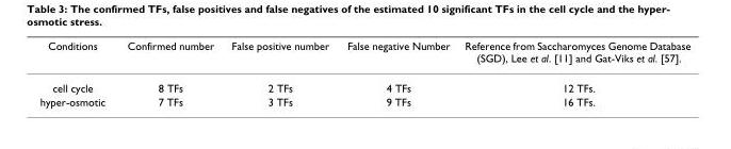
<table><thead><tr><td>Conditions</td><td>Confirmed number</td><td>False positive number</td><td>False negative Number</td><td>Reference from Saccharomyces Genome Database (SGD), Lee et al. [11] and Gat-Viks et al. [57].</td></tr></thead><tbody><tr><td>cell cycle</td><td>8 TFs</td><td>2 TFs</td><td>4 TFs</td><td>12 TFs.</td></tr><tr><td>hyper-osmotic</td><td>7 TFs</td><td>3 TFs</td><td>9 TFs</td><td>16 TFs.</td></tr></tbody></table>